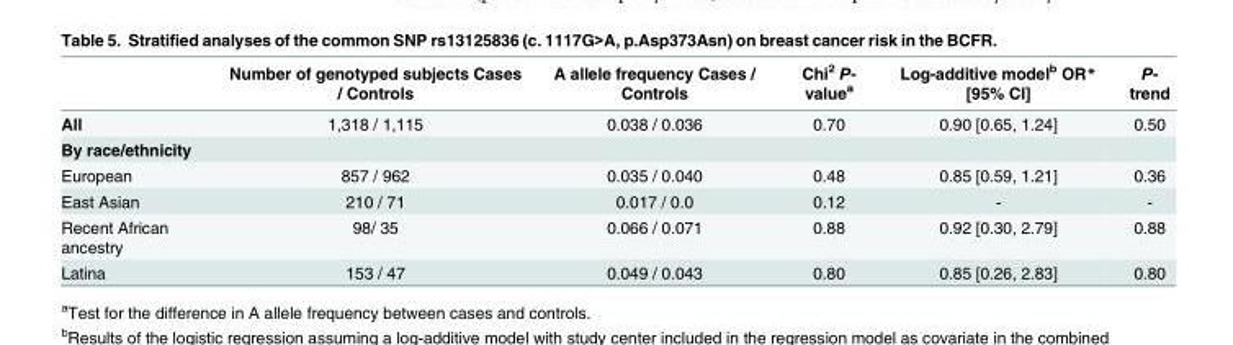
<table><thead><tr><td></td><td>Number of genotyped subjects Cases / Controls</td><td>A allele frequency Cases / Controls</td><td>Chi<sup>2</sup> P- value<sup>a</sup></td><td>Log-additive model<sup>b</sup> OR* [95% CI]</td><td>P- trend</td></tr></thead><tbody><tr><td>All</td><td>1,318 / 1,115</td><td>0.038 / 0.036</td><td>0.70</td><td>0.90 [0.65, 1.24]</td><td>0.50</td></tr><tr><td colspan="6">By race/ethnicity</td></tr><tr><td>European</td><td>857 / 962</td><td>0.035 / 0.040</td><td>0.48</td><td>0.85 [0.59, 1.21]</td><td>0.36</td></tr><tr><td>East Asian</td><td>210 / 71</td><td>0.017 / 0.0</td><td>0.12</td><td>-</td><td>-</td></tr><tr><td>Recent African ancestry</td><td>98/ 35</td><td>0.066 / 0.071</td><td>0.88</td><td>0.92 [0.30, 2.79]</td><td>0.88</td></tr><tr><td>Latina</td><td>153 / 47</td><td>0.049 / 0.043</td><td>0.80</td><td>0.85 [0.26, 2.83]</td><td>0.80</td></tr></tbody></table>